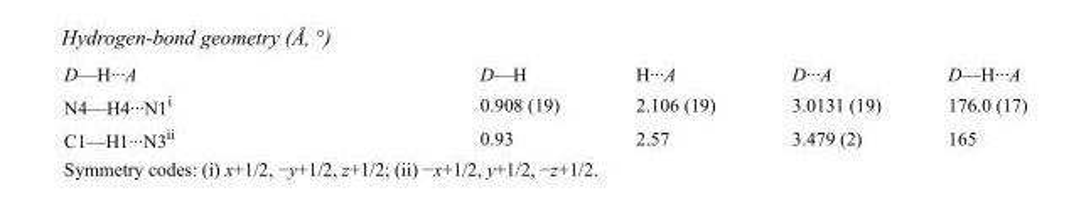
<table><tbody><tr><td>D—H···A</td><td>D—H</td><td>H···A</td><td>D···A</td><td>D—H···A</td></tr><tr><td>N4—H4···N1<sup>i</sup></td><td>0.908 (19)</td><td>2.106 (19)</td><td>3.0131 (19)</td><td>176.0 (17)</td></tr><tr><td>C1—H1···N3<sup>ii</sup></td><td>0.93</td><td>2.57</td><td>3.479 (2)</td><td>165</td></tr></tbody></table>